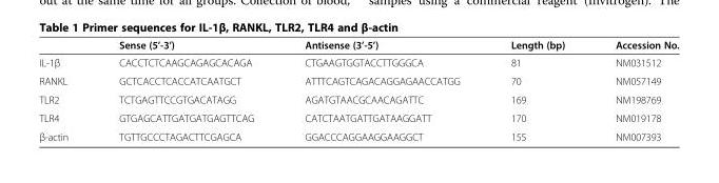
<table><thead><tr><td></td><td>Sense (5’-3’)</td><td>Antisense (3’-5’)</td><td>Length (bp)</td><td>Accession No.</td></tr></thead><tbody><tr><td>IL-1β</td><td>CACCTCTCAAGCAGAGCACAGA</td><td>CTGAAGTGGTACCTTGGGCA</td><td>81</td><td>NM031512</td></tr><tr><td>RANKL</td><td>GCTCACCTCACCATCAATGCT</td><td>ATTTCAGTCAGACAGGAGAACCATGG</td><td>70</td><td>NM057149</td></tr><tr><td>TLR2</td><td>TCTGAGTTCCGTGACATAGG</td><td>AGATGTAACGCAACAGATTC</td><td>169</td><td>NM198769</td></tr><tr><td>TLR4</td><td>GTGAGCATTGATGATGAGTTCAG</td><td>CATCTAATGATTGATAAGGATT</td><td>170</td><td>NM019178</td></tr><tr><td>β-actin</td><td>TGTTGCCCTAGACTTCGAGCA</td><td>GGACCCAGGAAGGAAGGCT</td><td>155</td><td>NM007393</td></tr></tbody></table>